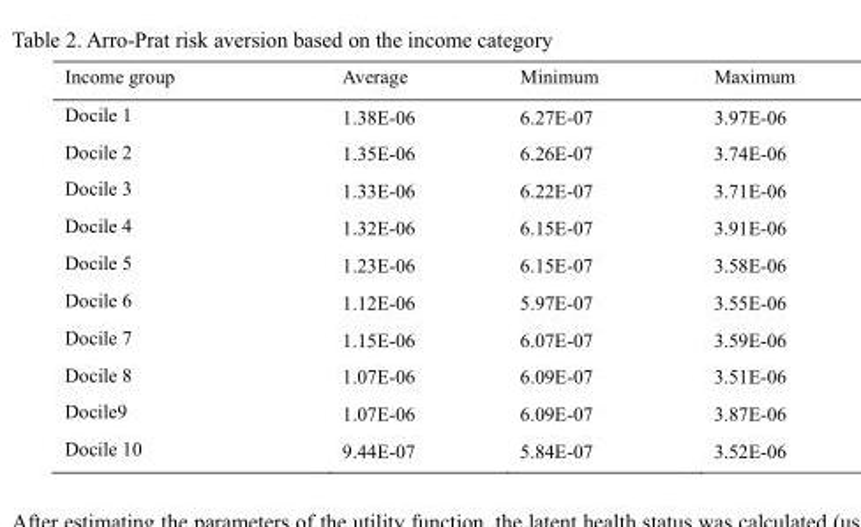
<table><thead><tr><td>Income group</td><td>Average</td><td>Minimum</td><td>Maximum</td></tr></thead><tbody><tr><td>Docile 1</td><td>1.38E-06</td><td>6.27E-07</td><td>3.97E-06</td></tr><tr><td>Docile 2</td><td>1.35E-06</td><td>6.26E-07</td><td>3.74E-06</td></tr><tr><td>Docile 3</td><td>1.33E-06</td><td>6.22E-07</td><td>3.71E-06</td></tr><tr><td>Docile 4</td><td>1.32E-06</td><td>6.15E-07</td><td>3.91E-06</td></tr><tr><td>Docile 5</td><td>1.23E-06</td><td>6.15E-07</td><td>3.58E-06</td></tr><tr><td>Docile 6</td><td>1.12E-06</td><td>5.97E-07</td><td>3.55E-06</td></tr><tr><td>Docile 7</td><td>1.15E-06</td><td>6.07E-07</td><td>3.59E-06</td></tr><tr><td>Docile 8</td><td>1.07E-06</td><td>6.09E-07</td><td>3.51E-06</td></tr><tr><td>Docile9</td><td>1.07E-06</td><td>6.09E-07</td><td>3.87E-06</td></tr><tr><td>Docile 10</td><td>9.44E-07</td><td>5.84E-07</td><td>3.52E-06</td></tr></tbody></table>